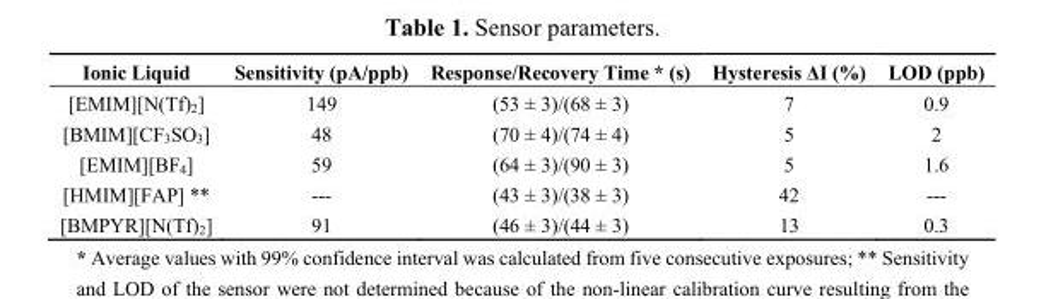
<table><thead><tr><td>Ionic Liquid</td><td>Sensitivity (pA/ppb)</td><td>Response/Recovery Time * (s)</td><td>Hysteresis ΔI (%)</td><td>LOD (ppb)</td></tr></thead><tbody><tr><td>[EMIM][N(Tf)<sub>2</sub>]</td><td>149</td><td>(53 ± 3)/(68 ± 3)</td><td>7</td><td>0.9</td></tr><tr><td>[BMIM][CF<sub>3</sub>SO<sub>3</sub>]</td><td>48</td><td>(70 ± 4)/(74 ± 4)</td><td>5</td><td>2</td></tr><tr><td>[EMIM][BF<sub>4</sub>]</td><td>59</td><td>(64 ± 3)/(90 ± 3)</td><td>5</td><td>1.6</td></tr><tr><td>[HMIM][FAP] **</td><td>---</td><td>(43 ± 3)/(38 ± 3)</td><td>42</td><td>---</td></tr><tr><td>[BMPYR][N(Tf)<sub>2</sub>]</td><td>91</td><td>(46 ± 3)/(44 ± 3)</td><td>13</td><td>0.3</td></tr></tbody></table>